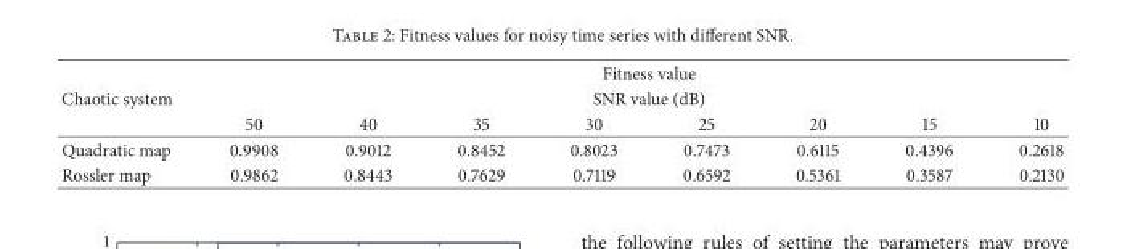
<table><thead><tr><td rowspan="3">Chaotic system</td><td rowspan="2" colspan="8">Fitness value SNR value (dB)</td></tr><tr></tr><tr><td>50</td><td>40</td><td>35</td><td>30</td><td>25</td><td>20</td><td>15</td><td>10</td></tr></thead><tbody><tr><td>Quadratic map</td><td>0.9908</td><td>0.9012</td><td>0.8452</td><td>0.8023</td><td>0.7473</td><td>0.6115</td><td>0.4396</td><td>0.2618</td></tr><tr><td>Rossler map</td><td>0.9862</td><td>0.8443</td><td>0.7629</td><td>0.7119</td><td>0.6592</td><td>0.5361</td><td>0.3587</td><td>0.2130</td></tr></tbody></table>